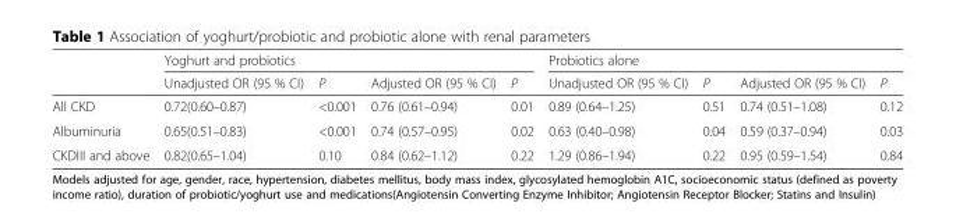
<table><thead><tr><td rowspan="2"></td><td colspan="4">Yoghurt and probiotics</td><td colspan="4">Probiotics alone</td></tr><tr><td>Unadjusted OR (95 % CI)</td><td>P</td><td>Adjusted OR (95 % CI)</td><td>P</td><td>Unadjusted OR (95 % CI)</td><td>P</td><td>Adjusted OR (95 % CI)</td><td>P</td></tr></thead><tbody><tr><td>All CKD</td><td>0.72(0.60–0.87)</td><td>&lt;0.001</td><td>0.76 (0.61–0.94)</td><td>0.01</td><td>0.89 (0.64–1.25)</td><td>0.51</td><td>0.74 (0.51–1.08)</td><td>0.12</td></tr><tr><td>Albuminuria</td><td>0.65(0.51–0.83)</td><td>&lt;0.001</td><td>0.74 (0.57–0.95)</td><td>0.02</td><td>0.63 (0.40–0.98)</td><td>0.04</td><td>0.59 (0.37–0.94)</td><td>0.03</td></tr><tr><td>CKDIII and above</td><td>0.82(0.65–1.04)</td><td>0.10</td><td>0.84 (0.62–1.12)</td><td>0.22</td><td>1.29 (0.86–1.94)</td><td>0.22</td><td>0.95 (0.59–1.54)</td><td>0.84</td></tr></tbody></table>